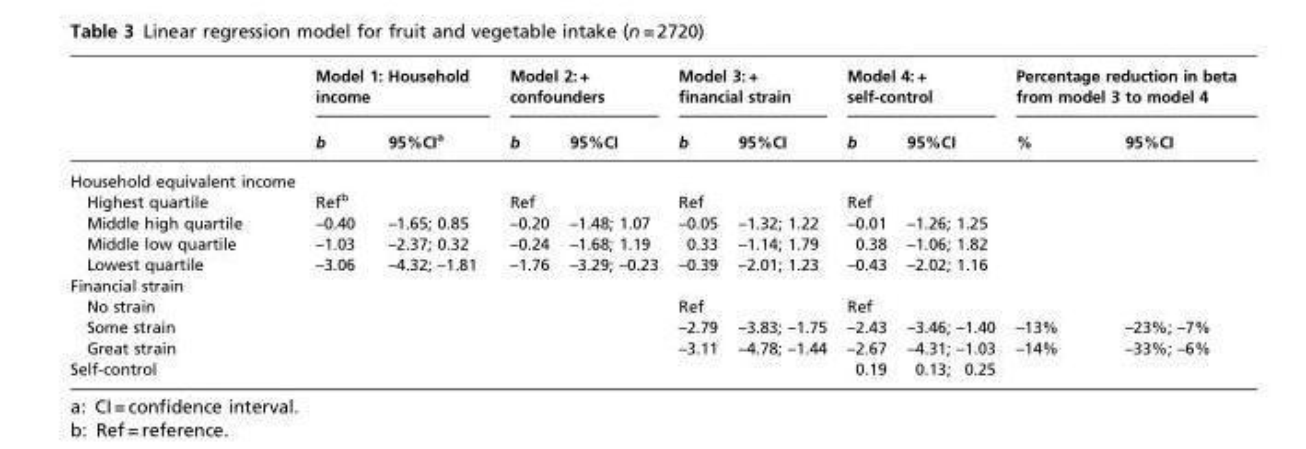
<table><thead><tr><td rowspan="2"></td><td colspan="2">Model 1: Household income</td><td colspan="2">Model 2: + confounders</td><td colspan="2">Model 3: + financial strain</td><td colspan="2">Model 4: + self-control</td><td colspan="2">Percentage reduction in beta from model 3 to model 4</td></tr><tr><td>b</td><td>95%CI<sup>a</sup></td><td>b</td><td>95%CI</td><td>b</td><td>95%CI</td><td>b</td><td>95%CI</td><td>%</td><td>95%CI</td></tr></thead><tbody><tr><td colspan="11">Household equivalent income</td></tr><tr><td>Highest quartile</td><td>Ref<sup>b</sup></td><td></td><td>Ref</td><td></td><td>Ref</td><td></td><td>Ref</td><td></td><td></td><td></td></tr><tr><td>Middle high quartile</td><td>–0.40</td><td>–1.65; 0.85</td><td>–0.20</td><td>–1.48; 1.07</td><td>–0.05</td><td>–1.32; 1.22</td><td>–0.01</td><td>–1.26; 1.25</td><td></td><td></td></tr><tr><td>Middle low quartile</td><td>–1.03</td><td>–2.37; 0.32</td><td>–0.24</td><td>–1.68; 1.19</td><td>0.33</td><td>–1.14; 1.79</td><td>0.38</td><td>–1.06; 1.82</td><td></td><td></td></tr><tr><td>Lowest quartile</td><td>–3.06</td><td>–4.32; –1.81</td><td>–1.76</td><td>–3.29; –0.23</td><td>–0.39</td><td>–2.01; 1.23</td><td>–0.43</td><td>–2.02; 1.16</td><td></td><td></td></tr><tr><td colspan="11">Financial strain</td></tr><tr><td>No strain</td><td></td><td></td><td></td><td></td><td>Ref</td><td></td><td>Ref</td><td></td><td></td><td></td></tr><tr><td>Some strain</td><td></td><td></td><td></td><td></td><td>–2.79</td><td>–3.83; –1.75</td><td>–2.43</td><td>–3.46; –1.40</td><td>–13%</td><td>–23%; –7%</td></tr><tr><td>Great strain</td><td></td><td></td><td></td><td></td><td>–3.11</td><td>–4.78; –1.44</td><td>–2.67</td><td>–4.31; –1.03</td><td>–14%</td><td>–33%; –6%</td></tr><tr><td>Self-control</td><td></td><td></td><td></td><td></td><td></td><td></td><td>0.19</td><td>0.13; 0.25</td><td></td><td></td></tr></tbody></table>